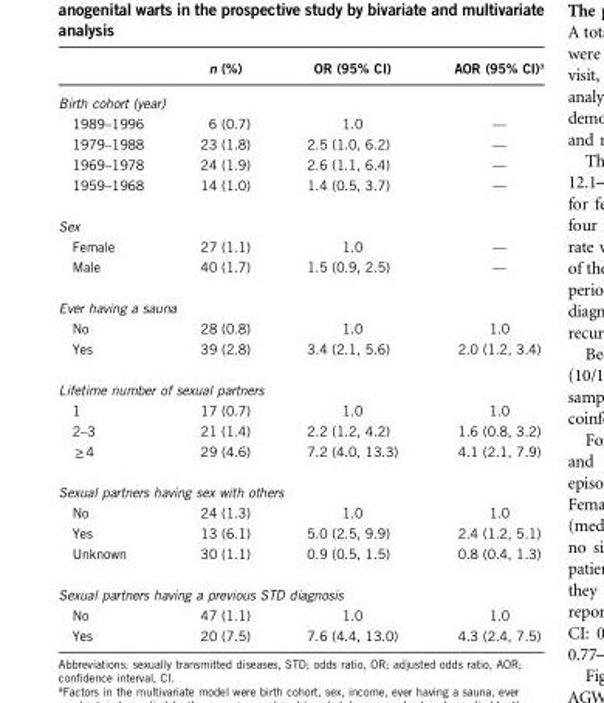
<table><thead><tr><td></td><td>n (%)</td><td>OR (95% CI)</td><td>AOR (95% CI)<sup>a</sup></td></tr></thead><tbody><tr><td colspan="4">Birth cohort (year)</td></tr><tr><td>1989–1996</td><td>6 (0.7)</td><td>1.0</td><td>—</td></tr><tr><td>1979–1988</td><td>23 (1.8)</td><td>2.5 (1.0, 6.2)</td><td>—</td></tr><tr><td>1969–1978</td><td>24 (1.9)</td><td>2.6 (1.1, 6.4)</td><td>—</td></tr><tr><td>1959–1968</td><td>14 (1.0)</td><td>1.4 (0.5, 3.7)</td><td>—</td></tr><tr><td colspan="4">Sex</td></tr><tr><td>Female</td><td>27 (1.1)</td><td>1.0</td><td>—</td></tr><tr><td>Male</td><td>40 (1.7)</td><td>1.5 (0.9, 2.5)</td><td>—</td></tr><tr><td colspan="4">Ever having a sauna</td></tr><tr><td>No</td><td>28 (0.8)</td><td>1.0</td><td>1.0</td></tr><tr><td>Yes</td><td>39 (2.8)</td><td>3.4 (2.1, 5.6)</td><td>2.0 (1.2, 3.4)</td></tr><tr><td colspan="4">Lifetime number of sexual partners</td></tr><tr><td>1</td><td>17 (0.7)</td><td>1.0</td><td>1.0</td></tr><tr><td>2–3</td><td>21 (1.4)</td><td>2.2 (1.2, 4.2)</td><td>1.6 (0.8, 3.2)</td></tr><tr><td>≥ 4</td><td>29 (4.6)</td><td>7.2 (4.0, 13.3)</td><td>4.1 (2.1, 7.9)</td></tr><tr><td colspan="4">Sexual partners having sex with others</td></tr><tr><td>No</td><td>24 (1.3)</td><td>1.0</td><td>1.0</td></tr><tr><td>Yes</td><td>13 (6.1)</td><td>5.0 (2.5, 9.9)</td><td>2.4 (1.2, 5.1)</td></tr><tr><td>Unknown</td><td>30 (1.1)</td><td>0.9 (0.5, 1.5)</td><td>0.8 (0.4, 1.3)</td></tr><tr><td colspan="4">Sexual partners having a previous STD diagnosis</td></tr><tr><td>No</td><td>47 (1.1)</td><td>1.0</td><td>1.0</td></tr><tr><td>Yes</td><td>20 (7.5)</td><td>7.6 (4.4, 13.0)</td><td>4.3 (2.4, 7.5)</td></tr></tbody></table>